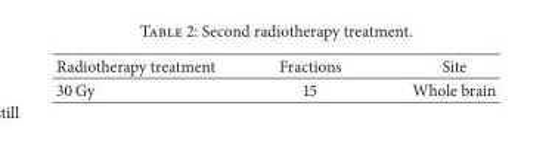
<table><thead><tr><td>Radiotherapy treatment</td><td>Fractions</td><td>Site</td></tr></thead><tbody><tr><td>30 Gy</td><td>15</td><td>Whole brain</td></tr></tbody></table>